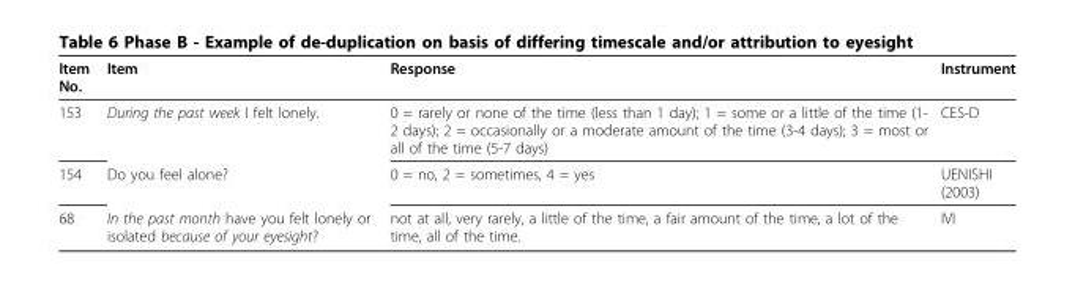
<table><thead><tr><td>Item No.</td><td>Item</td><td>Response</td><td>Instrument</td></tr></thead><tbody><tr><td>153</td><td>During the past week I felt lonely.</td><td>0 = rarely or none of the time (less than 1 day); 1 = some or a little of the time (1- 2 days); 2 = occasionally or a moderate amount of the time (3-4 days); 3 = most or all of the time (5-7 days)</td><td>CES-D</td></tr><tr><td>154</td><td>Do you feel alone?</td><td>0 = no, 2 = sometimes, 4 = yes</td><td>UENISHI (2003)</td></tr><tr><td>68</td><td>In the past month have you felt lonely or isolated because of your eyesight?</td><td>not at all, very rarely, a little of the time, a fair amount of the time, a lot of the time, all of the time.</td><td>IVI</td></tr></tbody></table>